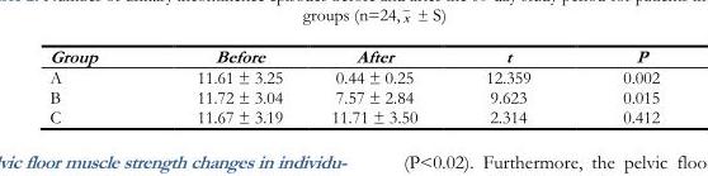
<table><thead><tr><td>Group</td><td>Before</td><td>After</td><td>t</td><td>P</td></tr></thead><tbody><tr><td>A</td><td>11.61 ± 3.25</td><td>0.44 ± 0.25</td><td>12.359</td><td>0.002</td></tr><tr><td>B</td><td>11.72 ± 3.04</td><td>7.57 ± 2.84</td><td>9.623</td><td>0.015</td></tr><tr><td>C</td><td>11.67 ± 3.19</td><td>11.71 ± 3.50</td><td>2.314</td><td>0.412</td></tr></tbody></table>